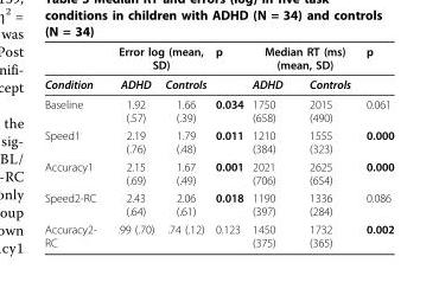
<table><thead><tr><td rowspan="2">Condition</td><td colspan="2">Error log (mean, SD)</td><td rowspan="2">p</td><td colspan="2">Median RT (ms) (mean, SD)</td><td rowspan="2">p</td></tr><tr><td>ADHD</td><td>Controls</td><td>ADHD</td><td>Controls</td></tr></thead><tbody><tr><td>Baseline</td><td>1.92 (.57)</td><td>1.66 (.39)</td><td>0.034</td><td>1750 (658)</td><td>2015 (490)</td><td>0.061</td></tr><tr><td>Speed1</td><td>2.19 (.76)</td><td>1.79 (.48)</td><td>0.011</td><td>1210 (384)</td><td>1555 (323)</td><td>0.000</td></tr><tr><td>Accuracy1</td><td>2.15 (.69)</td><td>1.67 (.49)</td><td>0.001</td><td>2021 (706)</td><td>2625 (654)</td><td>0.000</td></tr><tr><td>Speed2-RC</td><td>2.43 (.64)</td><td>2.06 (.61)</td><td>0.018</td><td>1190 (397)</td><td>1336 (284)</td><td>0.086</td></tr><tr><td>Accuracy2- RC</td><td>.99 (.70)</td><td>.74 (.12)</td><td>0.123</td><td>1450 (375)</td><td>1732 (365)</td><td>0.002</td></tr></tbody></table>